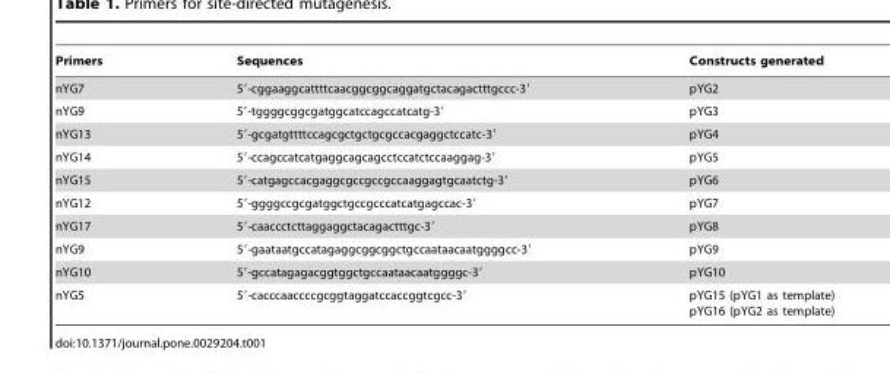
<table><thead><tr><td>Primers</td><td>Sequences</td><td>Constructs generated</td></tr></thead><tbody><tr><td>nYG7</td><td>5′-cggaaggcattttcaacggcggcaggatgctacagactttgccc-3′</td><td>pYG2</td></tr><tr><td>nYG9</td><td>5′-tggggcggcgatggcatccagccatcatg-3′</td><td>pYG3</td></tr><tr><td>nYG13</td><td>5′-gcgatgttttccagcgctgctgcgccacgaggctccatc-3′</td><td>pYG4</td></tr><tr><td>nYG14</td><td>5′-ccagccatcatgaggcagcagcctccatctccaaggag-3′</td><td>pYG5</td></tr><tr><td>nYG15</td><td>5′-catgagccacgaggcgccgccgccaaggagtgcaatctg-3′</td><td>pYG6</td></tr><tr><td>nYG12</td><td>5′-ggggccgcgatggctgccgcccatcatgagccac-3′</td><td>pYG7</td></tr><tr><td>nYG17</td><td>5′-caaccctcttaggaggctacagactttgc-3′</td><td>pYG8</td></tr><tr><td>nYG9</td><td>5′-gaataatgccatagaggcggcggctgccaataacaatggggcc-3′</td><td>pYG9</td></tr><tr><td>nYG10</td><td>5′-gccatagagacggtggctgccaataacaatggggc-3′</td><td>pYG10</td></tr><tr><td>nYG5</td><td>5′-cacccaaccccgcggtaggatccaccggtcgcc-3′</td><td>pYG15 (pYG1 as template) pYG16 (pYG2 as template)</td></tr></tbody></table>